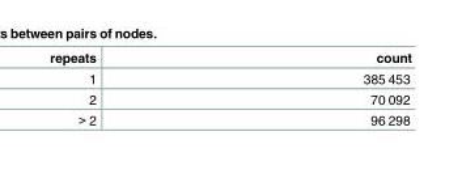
<table><thead><tr><td>repeats</td><td>count</td></tr></thead><tbody><tr><td>1</td><td>385 453</td></tr><tr><td>2</td><td>70 092</td></tr><tr><td>&gt; 2</td><td>96 298</td></tr></tbody></table>